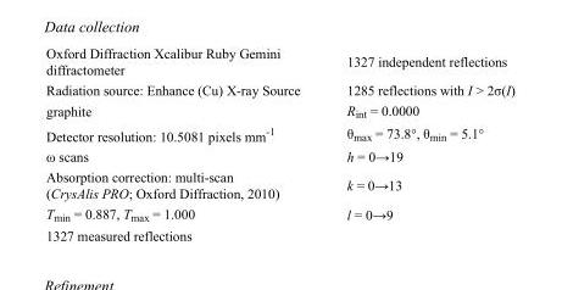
<table><tbody><tr><td>Oxford Diffraction Xcalibur Ruby Gemini diffractometer</td><td>1327 independent reflections</td></tr><tr><td>Radiation source: Enhance (Cu) X-ray Source</td><td>1285 reflections with I &gt; 2σ(I)</td></tr><tr><td>graphite</td><td>R<sub>int</sub> = 0.0000</td></tr><tr><td>Detector resolution: 10.5081 pixels mm<sup>-1</sup></td><td>θ<sub>max</sub> = 73.8°, θ<sub>min</sub> = 5.1°</td></tr><tr><td>ω scans</td><td>h = 0→19</td></tr><tr><td>Absorption correction: multi-scan (CrysAlis PRO; Oxford Diffraction, 2010)</td><td>k = 0→13</td></tr><tr><td>T<sub>min</sub> = 0.887, T<sub>max</sub> = 1.000</td><td>l = 0→9</td></tr><tr><td>1327 measured reflections</td><td></td></tr></tbody></table>